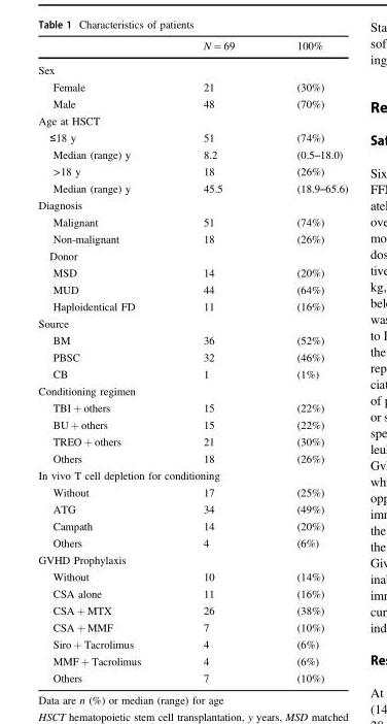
<table><thead><tr><td></td><td>N = 69</td><td>100%</td></tr></thead><tbody><tr><td colspan="3">Sex</td></tr><tr><td>Female</td><td>21</td><td>(30%)</td></tr><tr><td>Male</td><td>48</td><td>(70%)</td></tr><tr><td colspan="3">Age at HSCT</td></tr><tr><td>≤18 y</td><td>51</td><td>(74%)</td></tr><tr><td>Median (range) y</td><td>8.2</td><td>(0.5–18.0)</td></tr><tr><td>&gt;18 y</td><td>18</td><td>(26%)</td></tr><tr><td>Median (range) y</td><td>45.5</td><td>(18.9–65.6)</td></tr><tr><td colspan="3">Diagnosis</td></tr><tr><td>Malignant</td><td>51</td><td>(74%)</td></tr><tr><td>Non-malignant</td><td>18</td><td>(26%)</td></tr><tr><td colspan="3">Donor</td></tr><tr><td>MSD</td><td>14</td><td>(20%)</td></tr><tr><td>MUD</td><td>44</td><td>(64%)</td></tr><tr><td>Haploidentical FD</td><td>11</td><td>(16%)</td></tr><tr><td colspan="3">Source</td></tr><tr><td>BM</td><td>36</td><td>(52%)</td></tr><tr><td>PBSC</td><td>32</td><td>(46%)</td></tr><tr><td>CB</td><td>1</td><td>(1%)</td></tr><tr><td colspan="3">Conditioning regimen</td></tr><tr><td>TBI + others</td><td>15</td><td>(22%)</td></tr><tr><td>BU + others</td><td>15</td><td>(22%)</td></tr><tr><td>TREO + others</td><td>21</td><td>(30%)</td></tr><tr><td>Others</td><td>18</td><td>(26%)</td></tr><tr><td colspan="3">In vivo T cell depletion for conditioning</td></tr><tr><td>Without</td><td>17</td><td>(25%)</td></tr><tr><td>ATG</td><td>34</td><td>(49%)</td></tr><tr><td>Campath</td><td>14</td><td>(20%)</td></tr><tr><td>Others</td><td>4</td><td>(6%)</td></tr><tr><td colspan="3">GVHD Prophylaxis</td></tr><tr><td>Without</td><td>10</td><td>(14%)</td></tr><tr><td>CSA alone</td><td>11</td><td>(16%)</td></tr><tr><td>CSA + MTX</td><td>26</td><td>(38%)</td></tr><tr><td>CSA + MMF</td><td>7</td><td>(10%)</td></tr><tr><td>Siro + Tacrolimus</td><td>4</td><td>(6%)</td></tr><tr><td>MMF + Tacrolimus</td><td>4</td><td>(6%)</td></tr><tr><td>Others</td><td>7</td><td>(10%)</td></tr></tbody></table>